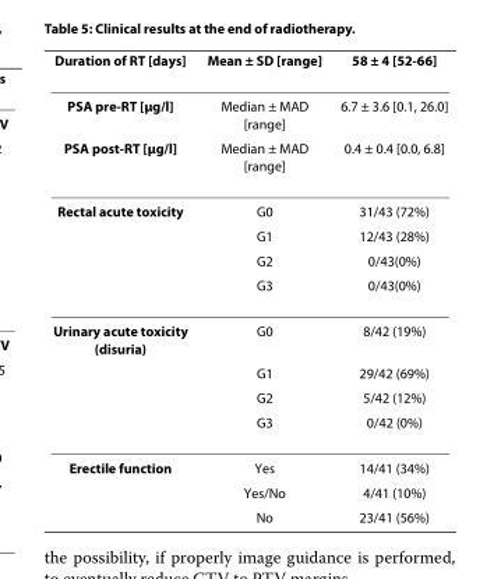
<table><thead><tr><td>Duration of RT [days]</td><td>Mean ± SD [range]</td><td>58 ± 4 [52-66]</td></tr></thead><tbody><tr><td>PSA pre-RT [μg/l]</td><td>Median ± MAD [range]</td><td>6.7 ± 3.6 [0.1, 26.0]</td></tr><tr><td>PSA post-RT [μg/l]</td><td>Median ± MAD [range]</td><td>0.4 ± 0.4 [0.0, 6.8]</td></tr><tr><td rowspan="4">Rectal acute toxicity</td><td>G0</td><td>31/43 (72%)</td></tr><tr><td>G1</td><td>12/43 (28%)</td></tr><tr><td>G2</td><td>0/43(0%)</td></tr><tr><td>G3</td><td>0/43(0%)</td></tr><tr><td rowspan="4">Urinary acute toxicity (disuria)</td><td>G0</td><td>8/42 (19%)</td></tr><tr><td>G1</td><td>29/42 (69%)</td></tr><tr><td>G2</td><td>5/42 (12%)</td></tr><tr><td>G3</td><td>0/42 (0%)</td></tr><tr><td rowspan="3">Erectile function</td><td>Yes</td><td>14/41 (34%)</td></tr><tr><td>Yes/No</td><td>4/41 (10%)</td></tr><tr><td>No</td><td>23/41 (56%)</td></tr></tbody></table>